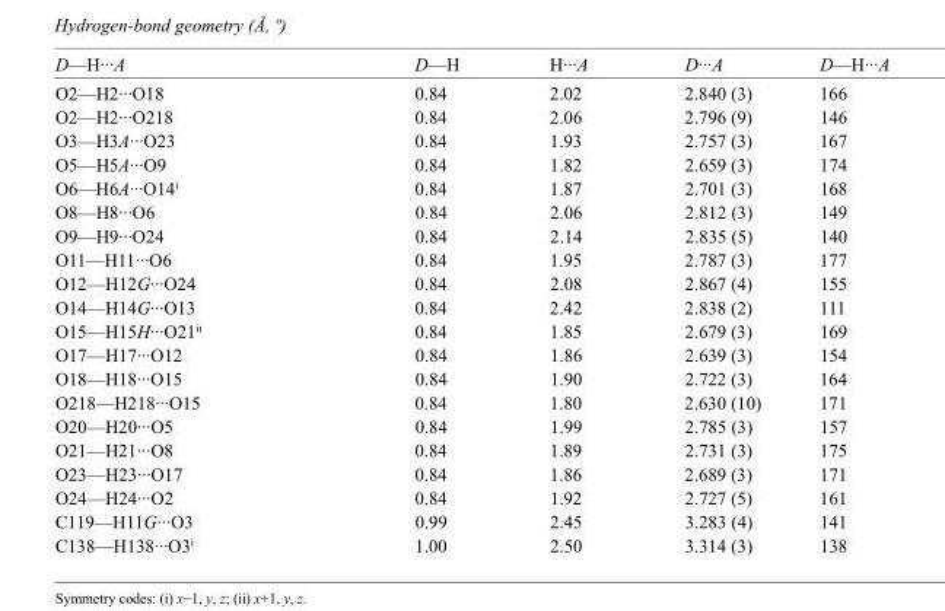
<table><tbody><tr><td>D—H···A</td><td>D—H</td><td>H···A</td><td>D···A</td><td>D—H···A</td></tr><tr><td>O2—H2···O18</td><td>0.84</td><td>2.02</td><td>2.840 (3)</td><td>166</td></tr><tr><td>O2—H2···O218</td><td>0.84</td><td>2.06</td><td>2.796 (9)</td><td>146</td></tr><tr><td>O3—H3A···O23</td><td>0.84</td><td>1.93</td><td>2.757 (3)</td><td>167</td></tr><tr><td>O5—H5A···O9</td><td>0.84</td><td>1.82</td><td>2.659 (3)</td><td>174</td></tr><tr><td>O6—H6A···O14<sup>i</sup></td><td>0.84</td><td>1.87</td><td>2.701 (3)</td><td>168</td></tr><tr><td>O8—H8···O6</td><td>0.84</td><td>2.06</td><td>2.812 (3)</td><td>149</td></tr><tr><td>O9—H9···O24</td><td>0.84</td><td>2.14</td><td>2.835 (5)</td><td>140</td></tr><tr><td>O11—H11···O6</td><td>0.84</td><td>1.95</td><td>2.787 (3)</td><td>177</td></tr><tr><td>O12—H12G···O24</td><td>0.84</td><td>2.08</td><td>2.867 (4)</td><td>155</td></tr><tr><td>O14—H14G···O13</td><td>0.84</td><td>2.42</td><td>2.838 (2)</td><td>111</td></tr><tr><td>O15—H15H···O21<sup>ii</sup></td><td>0.84</td><td>1.85</td><td>2.679 (3)</td><td>169</td></tr><tr><td>O17—H17···O12</td><td>0.84</td><td>1.86</td><td>2.639 (3)</td><td>154</td></tr><tr><td>O18—H18···O15</td><td>0.84</td><td>1.90</td><td>2.722 (3)</td><td>164</td></tr><tr><td>O218—H218···O15</td><td>0.84</td><td>1.80</td><td>2.630 (10)</td><td>171</td></tr><tr><td>O20—H20···O5</td><td>0.84</td><td>1.99</td><td>2.785 (3)</td><td>157</td></tr><tr><td>O21—H21···O8</td><td>0.84</td><td>1.89</td><td>2.731 (3)</td><td>175</td></tr><tr><td>O23—H23···O17</td><td>0.84</td><td>1.86</td><td>2.689 (3)</td><td>171</td></tr><tr><td>O24—H24···O2</td><td>0.84</td><td>1.92</td><td>2.727 (5)</td><td>161</td></tr><tr><td>C119—H11G···O3</td><td>0.99</td><td>2.45</td><td>3.283 (4)</td><td>141</td></tr><tr><td>C138—H138···O3<sup>i</sup></td><td>1.00</td><td>2.50</td><td>3.314 (3)</td><td>138</td></tr></tbody></table>